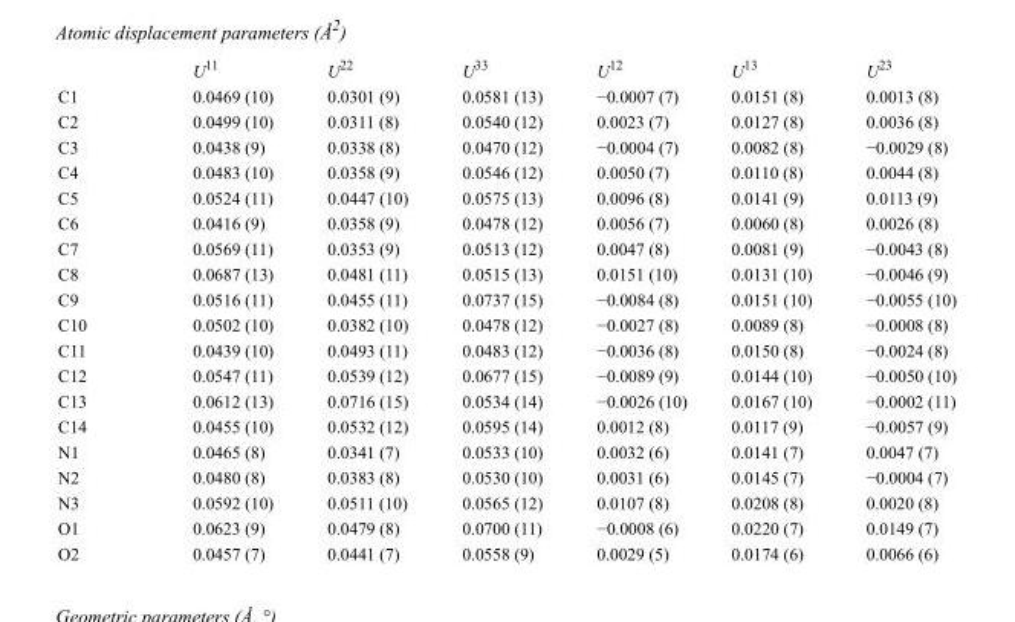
<table><thead><tr><td></td><td>U<sup>11</sup></td><td>U<sup>22</sup></td><td>U<sup>33</sup></td><td>U<sup>12</sup></td><td>U<sup>13</sup></td><td>U<sup>23</sup></td></tr></thead><tbody><tr><td>C1</td><td>0.0469 (10)</td><td>0.0301 (9)</td><td>0.0581 (13)</td><td>−0.0007 (7)</td><td>0.0151 (8)</td><td>0.0013 (8)</td></tr><tr><td>C2</td><td>0.0499 (10)</td><td>0.0311 (8)</td><td>0.0540 (12)</td><td>0.0023 (7)</td><td>0.0127 (8)</td><td>0.0036 (8)</td></tr><tr><td>C3</td><td>0.0438 (9)</td><td>0.0338 (8)</td><td>0.0470 (12)</td><td>−0.0004 (7)</td><td>0.0082 (8)</td><td>−0.0029 (8)</td></tr><tr><td>C4</td><td>0.0483 (10)</td><td>0.0358 (9)</td><td>0.0546 (12)</td><td>0.0050 (7)</td><td>0.0110 (8)</td><td>0.0044 (8)</td></tr><tr><td>C5</td><td>0.0524 (11)</td><td>0.0447 (10)</td><td>0.0575 (13)</td><td>0.0096 (8)</td><td>0.0141 (9)</td><td>0.0113 (9)</td></tr><tr><td>C6</td><td>0.0416 (9)</td><td>0.0358 (9)</td><td>0.0478 (12)</td><td>0.0056 (7)</td><td>0.0060 (8)</td><td>0.0026 (8)</td></tr><tr><td>C7</td><td>0.0569 (11)</td><td>0.0353 (9)</td><td>0.0513 (12)</td><td>0.0047 (8)</td><td>0.0081 (9)</td><td>−0.0043 (8)</td></tr><tr><td>C8</td><td>0.0687 (13)</td><td>0.0481 (11)</td><td>0.0515 (13)</td><td>0.0151 (10)</td><td>0.0131 (10)</td><td>−0.0046 (9)</td></tr><tr><td>C9</td><td>0.0516 (11)</td><td>0.0455 (11)</td><td>0.0737 (15)</td><td>−0.0084 (8)</td><td>0.0151 (10)</td><td>−0.0055 (10)</td></tr><tr><td>C10</td><td>0.0502 (10)</td><td>0.0382 (10)</td><td>0.0478 (12)</td><td>−0.0027 (8)</td><td>0.0089 (8)</td><td>−0.0008 (8)</td></tr><tr><td>C11</td><td>0.0439 (10)</td><td>0.0493 (11)</td><td>0.0483 (12)</td><td>−0.0036 (8)</td><td>0.0150 (8)</td><td>−0.0024 (8)</td></tr><tr><td>C12</td><td>0.0547 (11)</td><td>0.0539 (12)</td><td>0.0677 (15)</td><td>−0.0089 (9)</td><td>0.0144 (10)</td><td>−0.0050 (10)</td></tr><tr><td>C13</td><td>0.0612 (13)</td><td>0.0716 (15)</td><td>0.0534 (14)</td><td>−0.0026 (10)</td><td>0.0167 (10)</td><td>−0.0002 (11)</td></tr><tr><td>C14</td><td>0.0455 (10)</td><td>0.0532 (12)</td><td>0.0595 (14)</td><td>0.0012 (8)</td><td>0.0117 (9)</td><td>−0.0057 (9)</td></tr><tr><td>N1</td><td>0.0465 (8)</td><td>0.0341 (7)</td><td>0.0533 (10)</td><td>0.0032 (6)</td><td>0.0141 (7)</td><td>0.0047 (7)</td></tr><tr><td>N2</td><td>0.0480 (8)</td><td>0.0383 (8)</td><td>0.0530 (10)</td><td>0.0031 (6)</td><td>0.0145 (7)</td><td>−0.0004 (7)</td></tr><tr><td>N3</td><td>0.0592 (10)</td><td>0.0511 (10)</td><td>0.0565 (12)</td><td>0.0107 (8)</td><td>0.0208 (8)</td><td>0.0020 (8)</td></tr><tr><td>O1</td><td>0.0623 (9)</td><td>0.0479 (8)</td><td>0.0700 (11)</td><td>−0.0008 (6)</td><td>0.0220 (7)</td><td>0.0149 (7)</td></tr><tr><td>O2</td><td>0.0457 (7)</td><td>0.0441 (7)</td><td>0.0558 (9)</td><td>0.0029 (5)</td><td>0.0174 (6)</td><td>0.0066 (6)</td></tr></tbody></table>